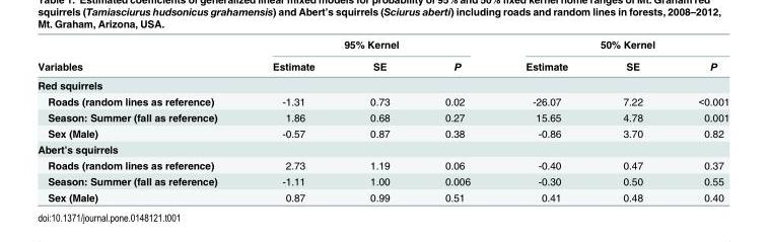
<table><thead><tr><td rowspan="2">Variables</td><td colspan="3">95% Kernel</td><td colspan="3">50% Kernel</td></tr><tr><td>Estimate</td><td>SE</td><td>P</td><td>Estimate</td><td>SE</td><td>P</td></tr></thead><tbody><tr><td colspan="7">Red squirrels</td></tr><tr><td>Roads (random lines as reference)</td><td>-1.31</td><td>0.73</td><td>0.02</td><td>-26.07</td><td>7.22</td><td>&lt;0.001</td></tr><tr><td>Season: Summer (fall as reference)</td><td>1.86</td><td>0.68</td><td>0.27</td><td>15.65</td><td>4.78</td><td>0.001</td></tr><tr><td>Sex (Male)</td><td>-0.57</td><td>0.87</td><td>0.38</td><td>-0.86</td><td>3.70</td><td>0.82</td></tr><tr><td colspan="7">Abert’s squirrels</td></tr><tr><td>Roads (random lines as reference)</td><td>2.73</td><td>1.19</td><td>0.06</td><td>-0.40</td><td>0.47</td><td>0.37</td></tr><tr><td>Season: Summer (fall as reference)</td><td>-1.11</td><td>1.00</td><td>0.006</td><td>-0.30</td><td>0.50</td><td>0.55</td></tr><tr><td>Sex (Male)</td><td>0.87</td><td>0.99</td><td>0.51</td><td>0.41</td><td>0.48</td><td>0.40</td></tr></tbody></table>